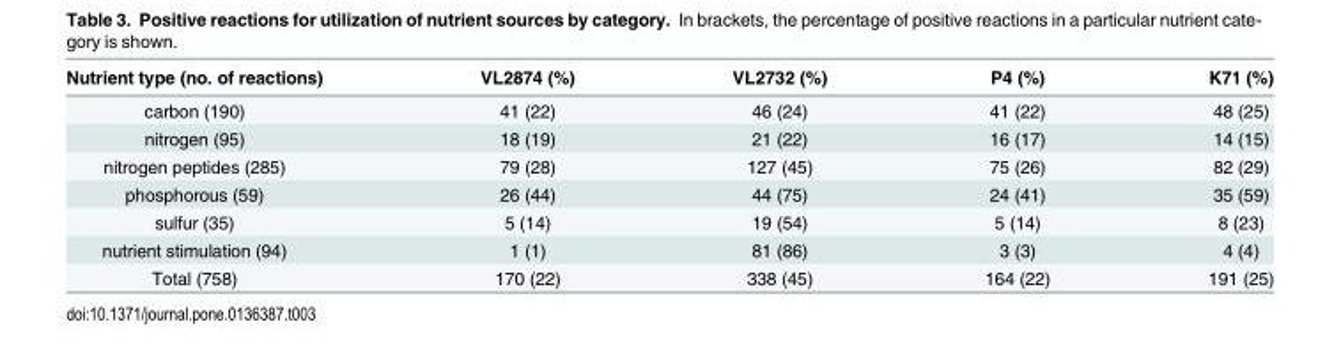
<table><thead><tr><td>Nutrient type (no. of reactions)</td><td>VL2874 (%)</td><td>VL2732 (%)</td><td>P4 (%)</td><td>K71 (%)</td></tr></thead><tbody><tr><td>carbon (190)</td><td>41 (22)</td><td>46 (24)</td><td>41 (22)</td><td>48 (25)</td></tr><tr><td>nitrogen (95)</td><td>18 (19)</td><td>21 (22)</td><td>16 (17)</td><td>14 (15)</td></tr><tr><td>nitrogen peptides (285)</td><td>79 (28)</td><td>127 (45)</td><td>75 (26)</td><td>82 (29)</td></tr><tr><td>phosphorous (59)</td><td>26 (44)</td><td>44 (75)</td><td>24 (41)</td><td>35 (59)</td></tr><tr><td>sulfur (35)</td><td>5 (14)</td><td>19 (54)</td><td>5 (14)</td><td>8 (23)</td></tr><tr><td>nutrient stimulation (94)</td><td>1 (1)</td><td>81 (86)</td><td>3 (3)</td><td>4 (4)</td></tr><tr><td>Total (758)</td><td>170 (22)</td><td>338 (45)</td><td>164 (22)</td><td>191 (25)</td></tr></tbody></table>